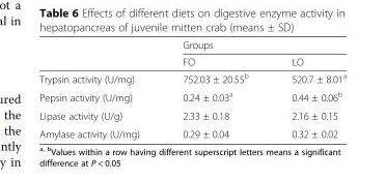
<table><thead><tr><td rowspan="2"></td><td colspan="2">Groups</td></tr><tr><td>FO</td><td>LO</td></tr></thead><tbody><tr><td>Trypsin activity (U/mg)</td><td>752.03 ± 20.55<sup>b</sup></td><td>520.7 ± 8.01<sup>a</sup></td></tr><tr><td>Pepsin activity (U/mg)</td><td>0.24 ± 0.03<sup>a</sup></td><td>0.44 ± 0.06<sup>b</sup></td></tr><tr><td>Lipase activity (U/g)</td><td>2.33 ± 0.18</td><td>2.16 ± 0.15</td></tr><tr><td>Amylase activity (U/mg)</td><td>0.29 ± 0.04</td><td>0.32 ± 0.02</td></tr></tbody></table>